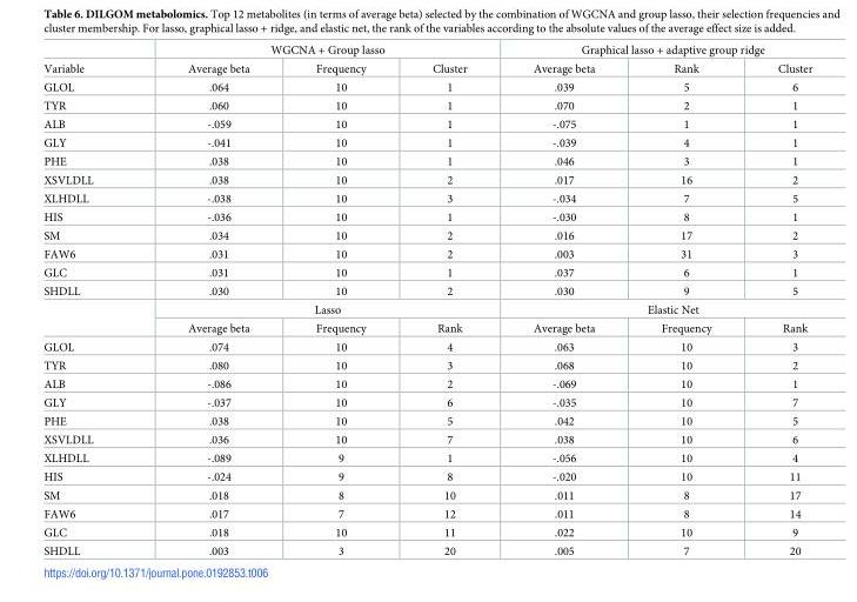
<table><thead><tr><td rowspan="2">Variable</td><td colspan="3">WGCNA + Group lasso</td><td colspan="3">Graphical lasso + adaptive group ridge</td></tr><tr><td>Average beta</td><td>Frequency</td><td>Cluster</td><td>Average beta</td><td>Rank</td><td>Cluster</td></tr></thead><tbody><tr><td>GLOL</td><td>.064</td><td>10</td><td>1</td><td>.039</td><td>5</td><td>6</td></tr><tr><td>TYR</td><td>.060</td><td>10</td><td>1</td><td>.070</td><td>2</td><td>1</td></tr><tr><td>ALB</td><td>-.059</td><td>10</td><td>1</td><td>-.075</td><td>1</td><td>1</td></tr><tr><td>GLY</td><td>-.041</td><td>10</td><td>1</td><td>-.039</td><td>4</td><td>1</td></tr><tr><td>PHE</td><td>.038</td><td>10</td><td>1</td><td>.046</td><td>3</td><td>1</td></tr><tr><td>XSVLDLL</td><td>.038</td><td>10</td><td>2</td><td>.017</td><td>16</td><td>2</td></tr><tr><td>XLHDLL</td><td>-.038</td><td>10</td><td>3</td><td>-.034</td><td>7</td><td>5</td></tr><tr><td>HIS</td><td>-.036</td><td>10</td><td>1</td><td>-.030</td><td>8</td><td>1</td></tr><tr><td>SM</td><td>.034</td><td>10</td><td>2</td><td>.016</td><td>17</td><td>2</td></tr><tr><td>FAW6</td><td>.031</td><td>10</td><td>2</td><td>.003</td><td>31</td><td>3</td></tr><tr><td>GLC</td><td>.031</td><td>10</td><td>1</td><td>.037</td><td>6</td><td>1</td></tr><tr><td rowspan="3">SHDLL</td><td>.030</td><td>10</td><td>2</td><td>.030</td><td>9</td><td>5</td></tr><tr><td colspan="3">Lasso</td><td colspan="3">Elastic Net</td></tr><tr><td>Average beta</td><td>Frequency</td><td>Rank</td><td>Average beta</td><td>Frequency</td><td>Rank</td></tr><tr><td>GLOL</td><td>.074</td><td>10</td><td>4</td><td>.063</td><td>10</td><td>3</td></tr><tr><td>TYR</td><td>.080</td><td>10</td><td>3</td><td>.068</td><td>10</td><td>2</td></tr><tr><td>ALB</td><td>-.086</td><td>10</td><td>2</td><td>-.069</td><td>10</td><td>1</td></tr><tr><td>GLY</td><td>-.037</td><td>10</td><td>6</td><td>-.035</td><td>10</td><td>7</td></tr><tr><td>PHE</td><td>.038</td><td>10</td><td>5</td><td>.042</td><td>10</td><td>5</td></tr><tr><td>XSVLDLL</td><td>.036</td><td>10</td><td>7</td><td>.038</td><td>10</td><td>6</td></tr><tr><td>XLHDLL</td><td>-.089</td><td>9</td><td>1</td><td>-.056</td><td>10</td><td>4</td></tr><tr><td>HIS</td><td>-.024</td><td>9</td><td>8</td><td>-.020</td><td>10</td><td>11</td></tr><tr><td>SM</td><td>.018</td><td>8</td><td>10</td><td>.011</td><td>8</td><td>17</td></tr><tr><td>FAW6</td><td>.017</td><td>7</td><td>12</td><td>.011</td><td>8</td><td>14</td></tr><tr><td>GLC</td><td>.018</td><td>10</td><td>11</td><td>.022</td><td>10</td><td>9</td></tr><tr><td>SHDLL</td><td>.003</td><td>3</td><td>20</td><td>.005</td><td>7</td><td>20</td></tr></tbody></table>